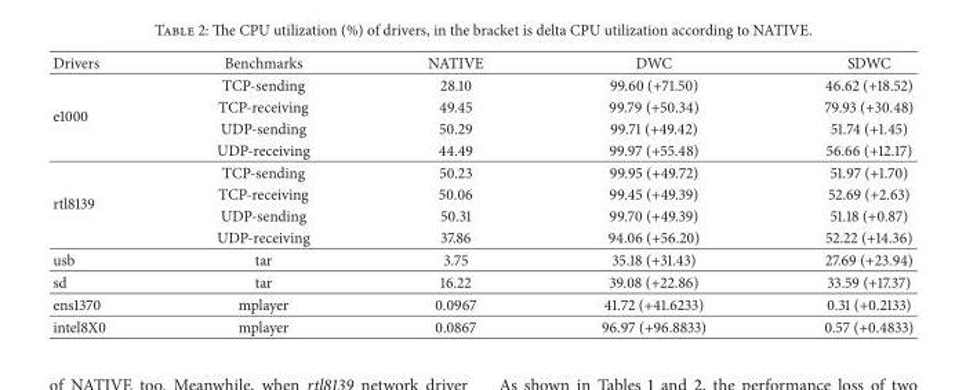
<table><thead><tr><td>Drivers</td><td>Benchmarks</td><td>NATIVE</td><td>DWC</td><td>SDWC</td></tr></thead><tbody><tr><td rowspan="4">e1000</td><td>TCP-sending</td><td>28.10</td><td>99.60 (+71.50)</td><td>46.62 (+18.52)</td></tr><tr><td>TCP-receiving</td><td>49.45</td><td>99.79 (+50.34)</td><td>79.93 (+30.48)</td></tr><tr><td>UDP-sending</td><td>50.29</td><td>99.71 (+49.42)</td><td>51.74 (+1.45)</td></tr><tr><td>UDP-receiving</td><td>44.49</td><td>99.97 (+55.48)</td><td>56.66 (+12.17)</td></tr><tr><td rowspan="4">rtl8139</td><td>TCP-sending</td><td>50.23</td><td>99.95 (+49.72)</td><td>51.97 (+1.70)</td></tr><tr><td>TCP-receiving</td><td>50.06</td><td>99.45 (+49.39)</td><td>52.69 (+2.63)</td></tr><tr><td>UDP-sending</td><td>50.31</td><td>99.70 (+49.39)</td><td>51.18 (+0.87)</td></tr><tr><td>UDP-receiving</td><td>37.86</td><td>94.06 (+56.20)</td><td>52.22 (+14.36)</td></tr><tr><td>usb</td><td>tar</td><td>3.75</td><td>35.18 (+31.43)</td><td>27.69 (+23.94)</td></tr><tr><td>sd</td><td>tar</td><td>16.22</td><td>39.08 (+22.86)</td><td>33.59 (+17.37)</td></tr><tr><td>ens1370</td><td>mplayer</td><td>0.0967</td><td>41.72 (+41.6233)</td><td>0.31 (+0.2133)</td></tr><tr><td>intel8X0</td><td>mplayer</td><td>0.0867</td><td>96.97 (+96.8833)</td><td>0.57 (+0.4833)</td></tr></tbody></table>